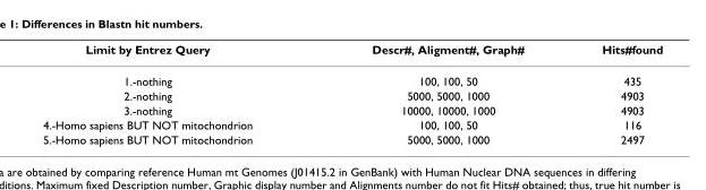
<table><thead><tr><td>Limit by Entrez Query</td><td>Descr#, Aligment#, Graph#</td><td>Hits#found</td></tr></thead><tbody><tr><td>1.-nothing</td><td>100, 100, 50</td><td>435</td></tr><tr><td>2.-nothing</td><td>5000, 5000, 1000</td><td>4903</td></tr><tr><td>3.-nothing</td><td>10000, 10000, 1000</td><td>4903</td></tr><tr><td>4.-Homo sapiens BUT NOT mitochondrion</td><td>100, 100, 50</td><td>116</td></tr><tr><td>5.-Homo sapiens BUT NOT mitochondrion</td><td>5000, 5000, 1000</td><td>2497</td></tr></tbody></table>